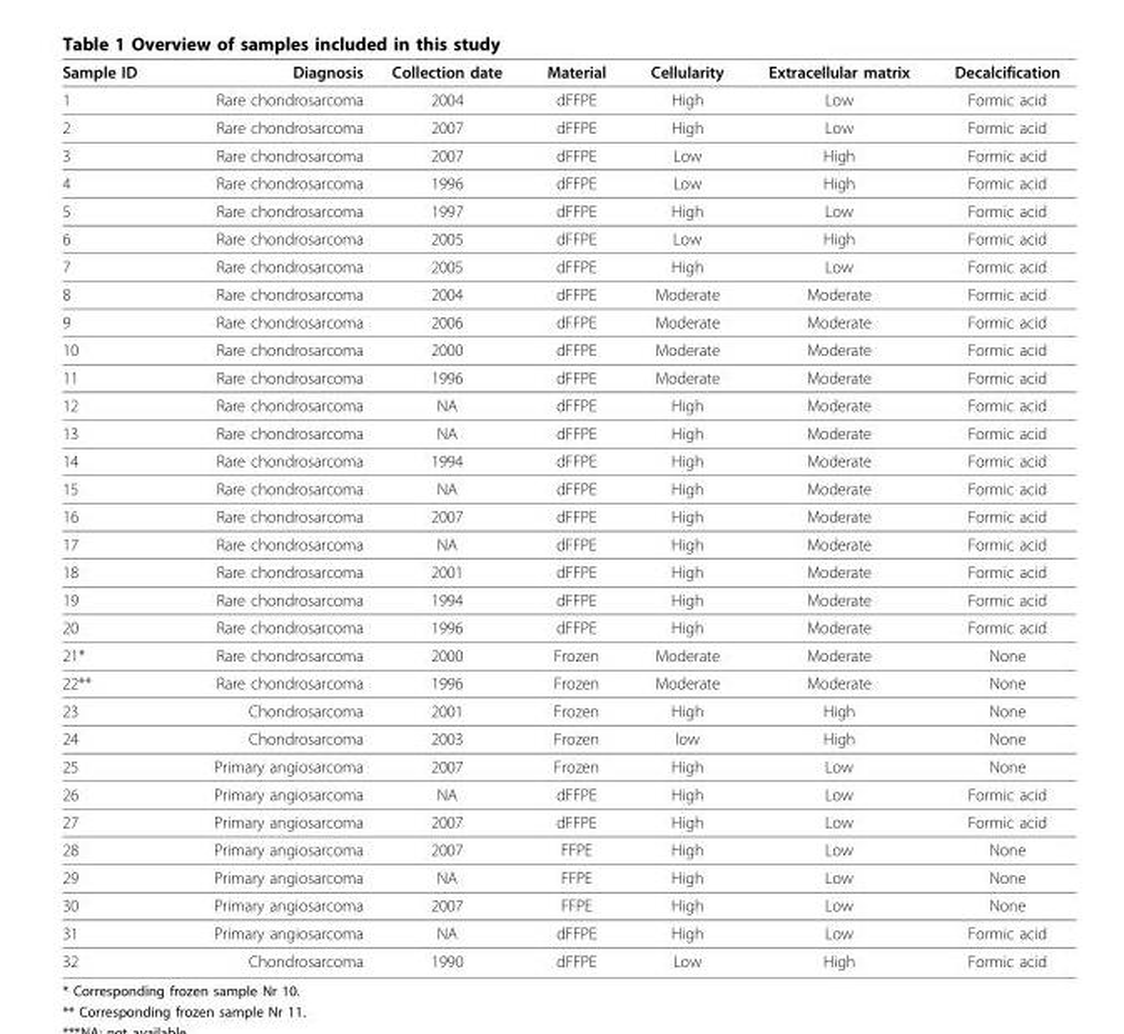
<table><thead><tr><td>Sample ID</td><td>Diagnosis</td><td>Collection date</td><td>Material</td><td>Cellularity</td><td>Extracellular matrix</td><td>Decalcification</td></tr></thead><tbody><tr><td>1</td><td>Rare chondrosarcoma</td><td>2004</td><td>dFFPE</td><td>High</td><td>Low</td><td>Formic acid</td></tr><tr><td>2</td><td>Rare chondrosarcoma</td><td>2007</td><td>dFFPE</td><td>High</td><td>Low</td><td>Formic acid</td></tr><tr><td>3</td><td>Rare chondrosarcoma</td><td>2007</td><td>dFFPE</td><td>Low</td><td>High</td><td>Formic acid</td></tr><tr><td>4</td><td>Rare chondrosarcoma</td><td>1996</td><td>dFFPE</td><td>Low</td><td>High</td><td>Formic acid</td></tr><tr><td>5</td><td>Rare chondrosarcoma</td><td>1997</td><td>dFFPE</td><td>High</td><td>Low</td><td>Formic acid</td></tr><tr><td>6</td><td>Rare chondrosarcoma</td><td>2005</td><td>dFFPE</td><td>Low</td><td>High</td><td>Formic acid</td></tr><tr><td>7</td><td>Rare chondrosarcoma</td><td>2005</td><td>dFFPE</td><td>High</td><td>Low</td><td>Formic acid</td></tr><tr><td>8</td><td>Rare chondrosarcoma</td><td>2004</td><td>dFFPE</td><td>Moderate</td><td>Moderate</td><td>Formic acid</td></tr><tr><td>9</td><td>Rare chondrosarcoma</td><td>2006</td><td>dFFPE</td><td>Moderate</td><td>Moderate</td><td>Formic acid</td></tr><tr><td>10</td><td>Rare chondrosarcoma</td><td>2000</td><td>dFFPE</td><td>Moderate</td><td>Moderate</td><td>Formic acid</td></tr><tr><td>11</td><td>Rare chondrosarcoma</td><td>1996</td><td>dFFPE</td><td>Moderate</td><td>Moderate</td><td>Formic acid</td></tr><tr><td>12</td><td>Rare chondrosarcoma</td><td>NA</td><td>dFFPE</td><td>High</td><td>Moderate</td><td>Formic acid</td></tr><tr><td>13</td><td>Rare chondrosarcoma</td><td>NA</td><td>dFFPE</td><td>High</td><td>Moderate</td><td>Formic acid</td></tr><tr><td>14</td><td>Rare chondrosarcoma</td><td>1994</td><td>dFFPE</td><td>High</td><td>Moderate</td><td>Formic acid</td></tr><tr><td>15</td><td>Rare chondrosarcoma</td><td>NA</td><td>dFFPE</td><td>High</td><td>Moderate</td><td>Formic acid</td></tr><tr><td>16</td><td>Rare chondrosarcoma</td><td>2007</td><td>dFFPE</td><td>High</td><td>Moderate</td><td>Formic acid</td></tr><tr><td>17</td><td>Rare chondrosarcoma</td><td>NA</td><td>dFFPE</td><td>High</td><td>Moderate</td><td>Formic acid</td></tr><tr><td>18</td><td>Rare chondrosarcoma</td><td>2001</td><td>dFFPE</td><td>High</td><td>Moderate</td><td>Formic acid</td></tr><tr><td>19</td><td>Rare chondrosarcoma</td><td>1994</td><td>dFFPE</td><td>High</td><td>Moderate</td><td>Formic acid</td></tr><tr><td>20</td><td>Rare chondrosarcoma</td><td>1996</td><td>dFFPE</td><td>High</td><td>Moderate</td><td>Formic acid</td></tr><tr><td>21*</td><td>Rare chondrosarcoma</td><td>2000</td><td>Frozen</td><td>Moderate</td><td>Moderate</td><td>None</td></tr><tr><td>22**</td><td>Rare chondrosarcoma</td><td>1996</td><td>Frozen</td><td>Moderate</td><td>Moderate</td><td>None</td></tr><tr><td>23</td><td>Chondrosarcoma</td><td>2001</td><td>Frozen</td><td>High</td><td>High</td><td>None</td></tr><tr><td>24</td><td>Chondrosarcoma</td><td>2003</td><td>Frozen</td><td>low</td><td>High</td><td>None</td></tr><tr><td>25</td><td>Primary angiosarcoma</td><td>2007</td><td>Frozen</td><td>High</td><td>Low</td><td>None</td></tr><tr><td>26</td><td>Primary angiosarcoma</td><td>NA</td><td>dFFPE</td><td>High</td><td>Low</td><td>Formic acid</td></tr><tr><td>27</td><td>Primary angiosarcoma</td><td>2007</td><td>dFFPE</td><td>High</td><td>Low</td><td>Formic acid</td></tr><tr><td>28</td><td>Primary angiosarcoma</td><td>2007</td><td>FFPE</td><td>High</td><td>Low</td><td>None</td></tr><tr><td>29</td><td>Primary angiosarcoma</td><td>NA</td><td>FFPE</td><td>High</td><td>Low</td><td>None</td></tr><tr><td>30</td><td>Primary angiosarcoma</td><td>2007</td><td>FFPE</td><td>High</td><td>Low</td><td>None</td></tr><tr><td>31</td><td>Primary angiosarcoma</td><td>NA</td><td>dFFPE</td><td>High</td><td>Low</td><td>Formic acid</td></tr><tr><td>32</td><td>Chondrosarcoma</td><td>1990</td><td>dFFPE</td><td>Low</td><td>High</td><td>Formic acid</td></tr></tbody></table>